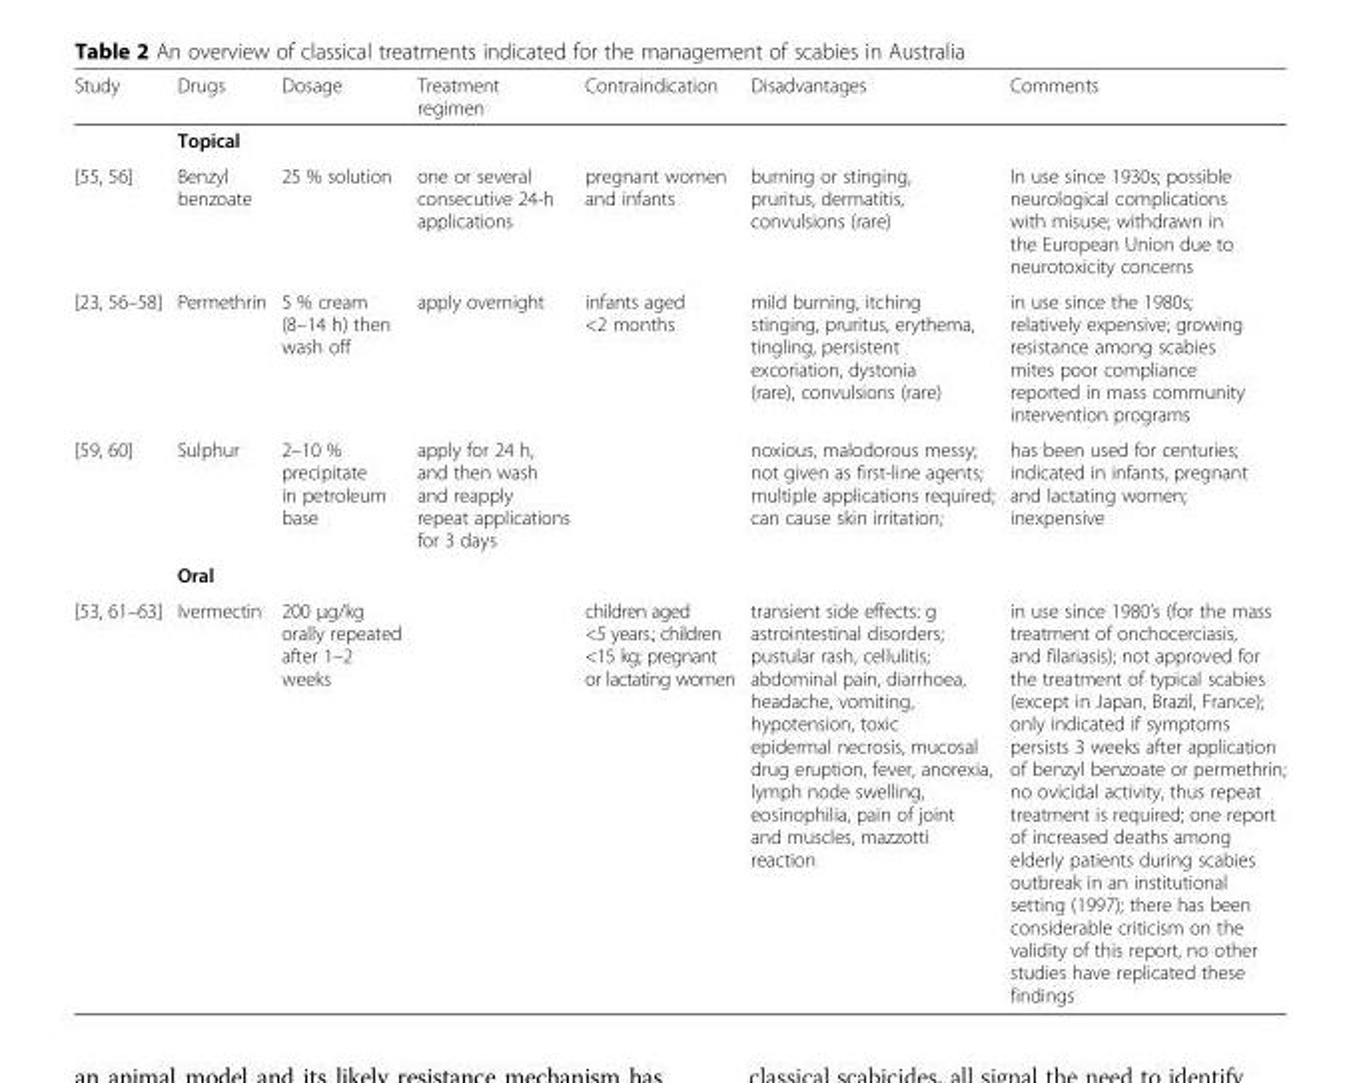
<table><thead><tr><td>Study</td><td>Drugs</td><td>Dosage</td><td>Treatment regimen</td><td>Contraindication</td><td>Disadvantages</td><td>Comments</td></tr></thead><tbody><tr><td></td><td colspan="6">Topical</td></tr><tr><td>[55, 56]</td><td>Benzyl benzoate</td><td>25 % solution</td><td>one or several consecutive 24-h applications</td><td>pregnant women and infants</td><td>burning or stinging, pruritus, dermatitis, convulsions (rare)</td><td>In use since 1930s; possible neurological complications with misuse; withdrawn in the European Union due to neurotoxicity concerns</td></tr><tr><td>[23, 56–58]</td><td>Permethrin</td><td>5 % cream (8–14 h) then wash off</td><td>apply overnight</td><td>infants aged &lt;2 months</td><td>mild burning, itching stinging, pruritus, erythema, tingling, persistent excoriation, dystonia (rare), convulsions (rare)</td><td>in use since the 1980s; relatively expensive; growing resistance among scabies mites poor compliance reported in mass community intervention programs</td></tr><tr><td rowspan="2">[59, 60]</td><td>Sulphur</td><td>2–10 % precipitate in petroleum base</td><td>apply for 24 h, and then wash and reapply repeat applications for 3 days</td><td></td><td>noxious, malodorous messy; not given as first-line agents; multiple applications required; can cause skin irritation;</td><td>has been used for centuries; indicated in infants, pregnant and lactating women; inexpensive</td></tr><tr><td colspan="6">Oral</td></tr><tr><td>[53, 61–63]</td><td>Ivermectin</td><td>200 μg/kg orally repeated after 1–2 weeks</td><td></td><td>children aged &lt;5 years.; children &lt;15 kg; pregnant or lactating women</td><td>transient side effects: g astrointestinal disorders; pustular rash, cellulitis; abdominal pain, diarrhoea, headache, vomiting, hypotension, toxic epidermal necrosis, mucosal drug eruption, fever, anorexia, lymph node swelling, eosinophilia, pain of joint and muscles, mazzotti reaction</td><td>in use since 1980’s (for the mass treatment of onchocerciasis, and filariasis); not approved for the treatment of typical scabies (except in Japan, Brazil, France); only indicated if symptoms persists 3 weeks after application of benzyl benzoate or permethrin; no ovicidal activity, thus repeat treatment is required; one report of increased deaths among elderly patients during scabies outbreak in an institutional setting (1997); there has been considerable criticism on the validity of this report, no other studies have replicated these findings</td></tr></tbody></table>